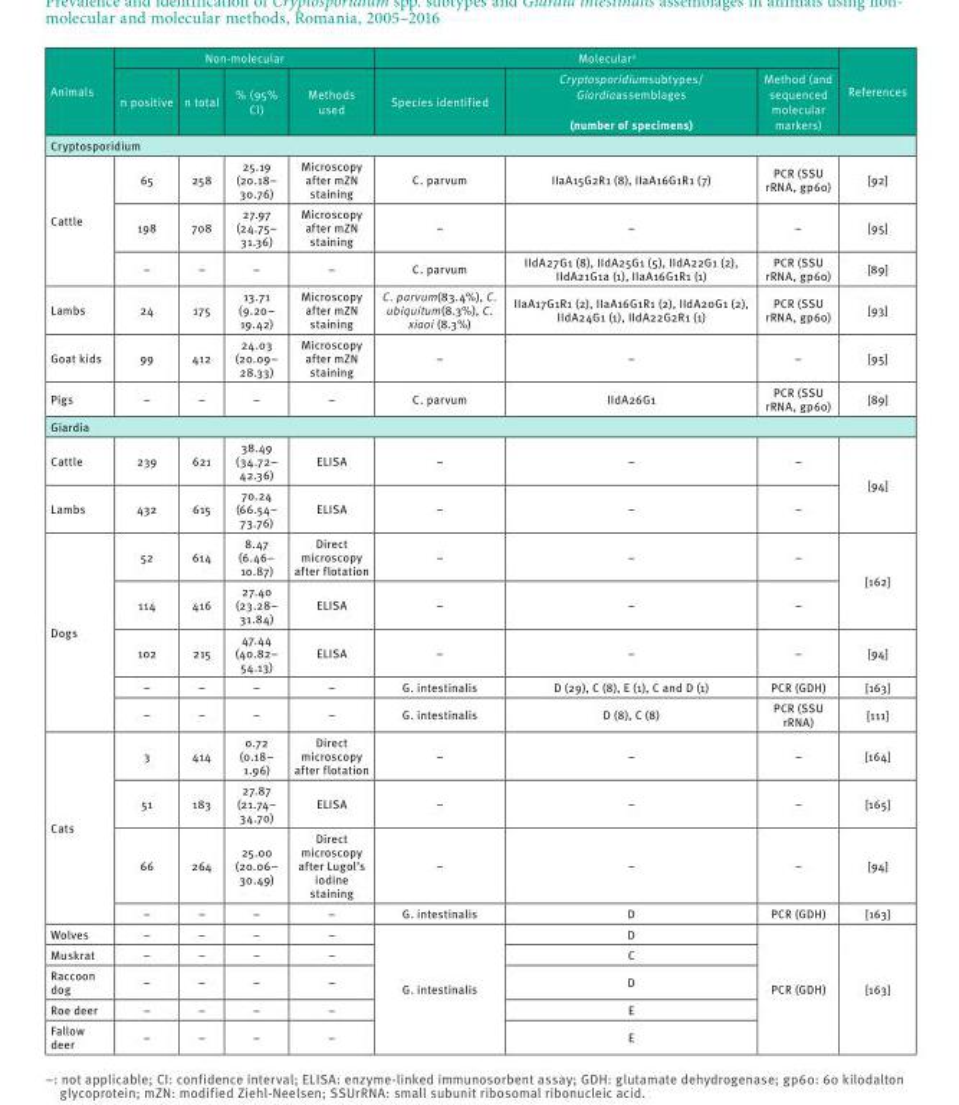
<table><thead><tr><td rowspan="2">Animals</td><td colspan="4">Non-molecular</td><td colspan="3">Molecular<sup>a</sup></td><td rowspan="2">References</td></tr><tr><td>n positive</td><td>n total</td><td>% (95% CI)</td><td>Methods used</td><td>Species identified</td><td>Cryptosporidiumsubtypes/ Giardiaassemblages (number of specimens)</td><td>Method (and sequenced molecular markers)</td></tr></thead><tbody><tr><td colspan="9">Cryptosporidium</td></tr><tr><td rowspan="3">Cattle</td><td>65</td><td>258</td><td>25.19 (20.18– 30.76)</td><td>Microscopy after mZN staining</td><td>C. parvum</td><td>IIaA15G2R1 (8), IIaA16G1R1 (7)</td><td>PCR (SSU rRNA, gp60)</td><td>[92]</td></tr><tr><td>198</td><td>708</td><td>27.97 (24.75– 31.36)</td><td>Microscopy after mZN staining</td><td>–</td><td>–</td><td>–</td><td>[95]</td></tr><tr><td>–</td><td>–</td><td>–</td><td>–</td><td>C. parvum</td><td>IIdA27G1 (8), IIdA25G1 (5), IIdA22G1 (2), IIdA21G1a (1), IIaA16G1R1 (1)</td><td>PCR (SSU rRNA, gp60)</td><td>[89]</td></tr><tr><td>Lambs</td><td>24</td><td>175</td><td>13.71 (9.20– 19.42)</td><td>Microscopy after mZN staining</td><td>C. parvum(83.4%), C. ubiquitum(8.3%), C. xiaoi (8.3%)</td><td>IIaA17G1R1 (2), IIaA16G1R1 (2), IIdA20G1 (2), IIdA24G1 (1), IIdA22G2R1 (1)</td><td>PCR (SSU rRNA, gp60)</td><td>[93]</td></tr><tr><td>Goat kids</td><td>99</td><td>412</td><td>24.03 (20.09– 28.33)</td><td>Microscopy after mZN staining</td><td>–</td><td>–</td><td>–</td><td>[95]</td></tr><tr><td>Pigs</td><td>–</td><td>–</td><td>–</td><td>–</td><td>C. parvum</td><td>IIdA26G1</td><td>PCR (SSU rRNA, gp60)</td><td>[89]</td></tr><tr><td colspan="9">Giardia</td></tr><tr><td>Cattle</td><td>239</td><td>621</td><td>38.49 (34.72– 42.36)</td><td>ELISA</td><td>–</td><td>–</td><td>–</td><td rowspan="2">[94]</td></tr><tr><td>Lambs</td><td>432</td><td>615</td><td>70.24 (66.54– 73.76)</td><td>ELISA</td><td>–</td><td>–</td><td>–</td></tr><tr><td rowspan="5">Dogs</td><td>52</td><td>614</td><td>8.47 (6.46– 10.87)</td><td>Direct microscopy after flotation</td><td>–</td><td>–</td><td>–</td><td rowspan="2">[162]</td></tr><tr><td>114</td><td>416</td><td>27.40 (23.28– 31.84)</td><td>ELISA</td><td>–</td><td>–</td><td>–</td></tr><tr><td>102</td><td>215</td><td>47.44 (40.82– 54.13)</td><td>ELISA</td><td>–</td><td>–</td><td>–</td><td>[94]</td></tr><tr><td>–</td><td>–</td><td>–</td><td>–</td><td>G. intestinalis</td><td>D (29), C (8), E (1), C and D (1)</td><td>PCR (GDH)</td><td>[163]</td></tr><tr><td>–</td><td>–</td><td>–</td><td>–</td><td>G. intestinalis</td><td>D (8), C (8)</td><td>PCR (SSU rRNA)</td><td>[111]</td></tr><tr><td rowspan="4">Cats</td><td>3</td><td>414</td><td>0.72 (0.18– 1.96)</td><td>Direct microscopy after flotation</td><td>–</td><td>–</td><td>–</td><td>[164]</td></tr><tr><td>51</td><td>183</td><td>27.87 (21.74– 34.70)</td><td>ELISA</td><td>–</td><td>–</td><td>–</td><td>[165]</td></tr><tr><td>66</td><td>264</td><td>25.00 (20.06– 30.49)</td><td>Direct microscopy after Lugol’s iodine staining</td><td>–</td><td>–</td><td>–</td><td>[94]</td></tr><tr><td>–</td><td>–</td><td>–</td><td>–</td><td>G. intestinalis</td><td>D</td><td>PCR (GDH)</td><td>[163]</td></tr><tr><td>Wolves</td><td>–</td><td>–</td><td>–</td><td>–</td><td rowspan="5">G. intestinalis</td><td>D</td><td rowspan="5">PCR (GDH)</td><td rowspan="5">[163]</td></tr><tr><td>Muskrat</td><td>–</td><td>–</td><td>–</td><td>–</td><td>C</td></tr><tr><td>Raccoon dog</td><td>–</td><td>–</td><td>–</td><td>–</td><td>D</td></tr><tr><td>Roe deer</td><td>–</td><td>–</td><td>–</td><td>–</td><td>E</td></tr><tr><td>Fallow deer</td><td>–</td><td>–</td><td>–</td><td>–</td><td>E</td></tr></tbody></table>